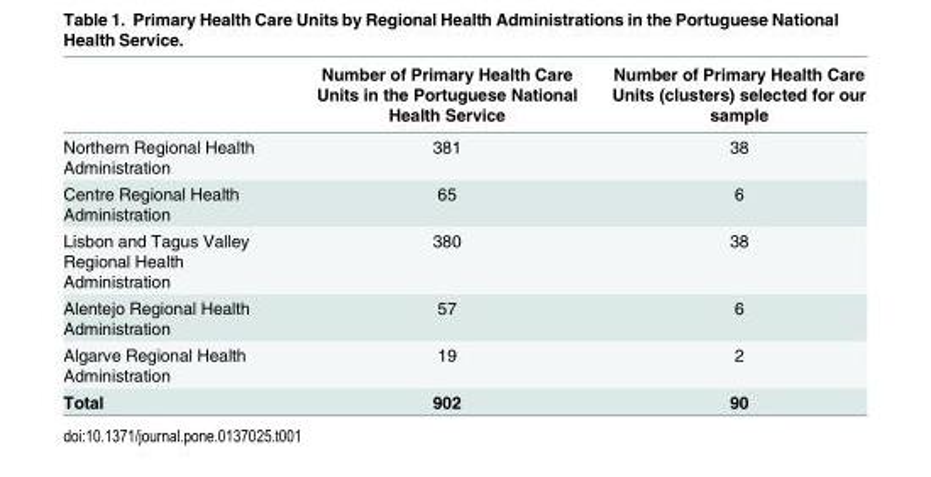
<table><thead><tr><td></td><td>Number of Primary Health Care Units in the Portuguese National Health Service</td><td>Number of Primary Health Care Units (clusters) selected for our sample</td></tr></thead><tbody><tr><td>Northern Regional Health Administration</td><td>381</td><td>38</td></tr><tr><td>Centre Regional Health Administration</td><td>65</td><td>6</td></tr><tr><td>Lisbon and Tagus Valley Regional Health Administration</td><td>380</td><td>38</td></tr><tr><td>Alentejo Regional Health Administration</td><td>57</td><td>6</td></tr><tr><td>Algarve Regional Health Administration</td><td>19</td><td>2</td></tr><tr><td>Total</td><td>902</td><td>90</td></tr></tbody></table>